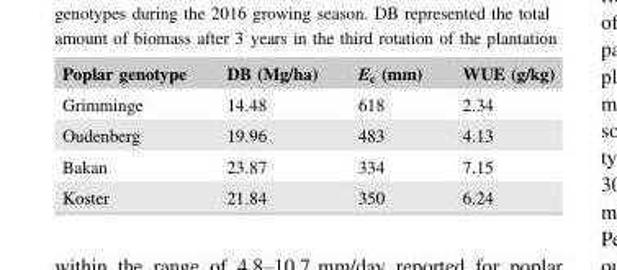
<table><thead><tr><td>Poplar genotype</td><td>DB (Mg/ha)</td><td>E<sub>c</sub> (mm)</td><td>WUE (g/kg)</td></tr></thead><tbody><tr><td>Grimminge</td><td>14.48</td><td>618</td><td>2.34</td></tr><tr><td>Oudenberg</td><td>19.96</td><td>483</td><td>4.13</td></tr><tr><td>Bakan</td><td>23.87</td><td>334</td><td>7.15</td></tr><tr><td>Koster</td><td>21.84</td><td>350</td><td>6.24</td></tr></tbody></table>